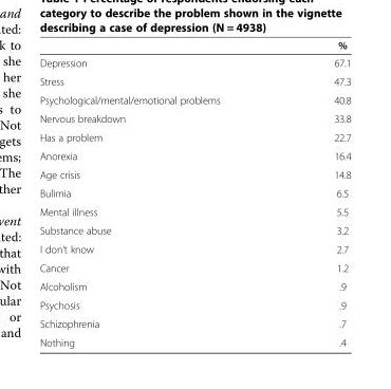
<table><thead><tr><td></td><td>%</td></tr></thead><tbody><tr><td>Depression</td><td>67.1</td></tr><tr><td>Stress</td><td>47.3</td></tr><tr><td>Psychological/mental/emotional problems</td><td>40.8</td></tr><tr><td>Nervous breakdown</td><td>33.8</td></tr><tr><td>Has a problem</td><td>22.7</td></tr><tr><td>Anorexia</td><td>16.4</td></tr><tr><td>Age crisis</td><td>14.8</td></tr><tr><td>Bulimia</td><td>6.5</td></tr><tr><td>Mental illness</td><td>5.5</td></tr><tr><td>Substance abuse</td><td>3.2</td></tr><tr><td>I don’t know</td><td>2.7</td></tr><tr><td>Cancer</td><td>1.2</td></tr><tr><td>Alcoholism</td><td>.9</td></tr><tr><td>Psychosis</td><td>.9</td></tr><tr><td>Schizophrenia</td><td>.7</td></tr><tr><td>Nothing</td><td>.4</td></tr></tbody></table>